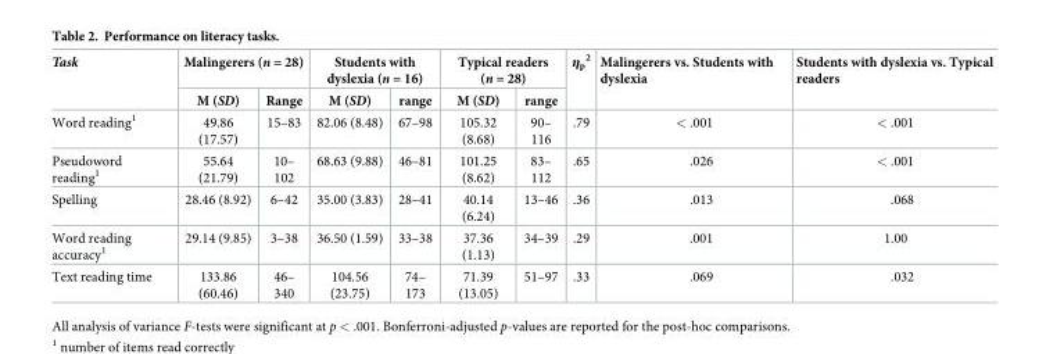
<table><thead><tr><td rowspan="2">Task</td><td colspan="2">Malingerers (n = 28)</td><td colspan="2">Students with dyslexia (n = 16)</td><td colspan="2">Typical readers (n = 28)</td><td rowspan="2">η<sub>p</sub> <sup>2</sup></td><td rowspan="2">Malingerers vs. Students with dyslexia</td><td rowspan="2">Students with dyslexia vs. Typical readers</td></tr><tr><td>M (SD)</td><td>Range</td><td>M (SD)</td><td>range</td><td>M (SD)</td><td>range</td></tr></thead><tbody><tr><td>Word reading<sup>1</sup></td><td>49.86 (17.57)</td><td>15–83</td><td>82.06 (8.48)</td><td>67–98</td><td>105.32 (8.68)</td><td>90– 116</td><td>.79</td><td>&lt; .001</td><td>&lt; .001</td></tr><tr><td>Pseudoword reading<sup>1</sup></td><td>55.64 (21.79)</td><td>10– 102</td><td>68.63 (9.88)</td><td>46–81</td><td>101.25 (8.62)</td><td>83– 112</td><td>.65</td><td>.026</td><td>&lt; .001</td></tr><tr><td>Spelling</td><td>28.46 (8.92)</td><td>6–42</td><td>35.00 (3.83)</td><td>28–41</td><td>40.14 (6.24)</td><td>13–46</td><td>.36</td><td>.013</td><td>.068</td></tr><tr><td>Word reading accuracy<sup>1</sup></td><td>29.14 (9.85)</td><td>3–38</td><td>36.50 (1.59)</td><td>33–38</td><td>37.36 (1.13)</td><td>34–39</td><td>.29</td><td>.001</td><td>1.00</td></tr><tr><td>Text reading time</td><td>133.86 (60.46)</td><td>46– 340</td><td>104.56 (23.75)</td><td>74– 173</td><td>71.39 (13.05)</td><td>51–97</td><td>.33</td><td>.069</td><td>.032</td></tr></tbody></table>